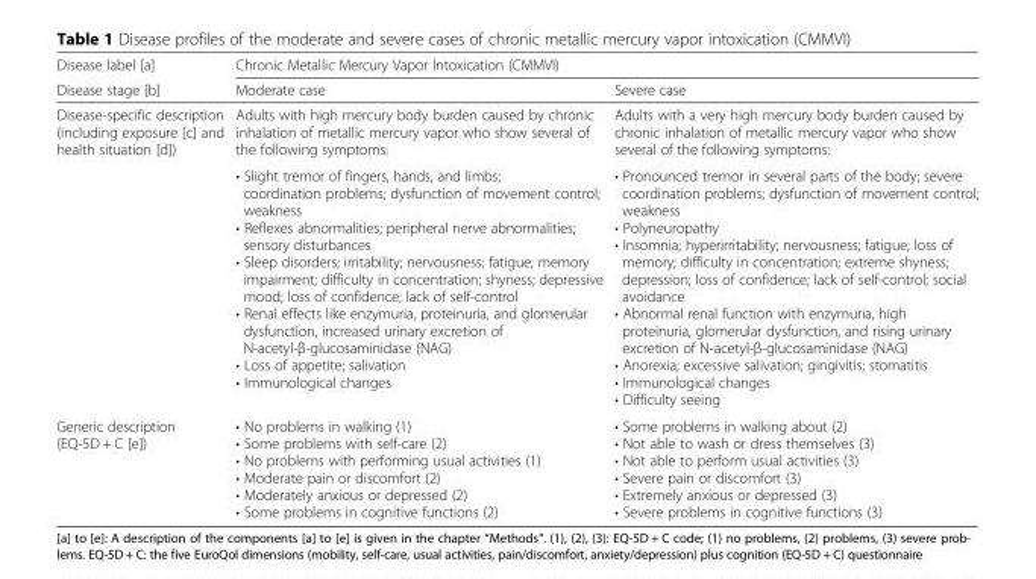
<table><thead><tr><td rowspan="2">Disease label [a] Disease stage [b]</td><td colspan="2">Chronic Metallic Mercury Vapor Intoxication (CMMVI)</td></tr><tr><td>Moderate case</td><td>Severe case</td></tr></thead><tbody><tr><td rowspan="2">Disease-specific description (including exposure [c] and health situation [d])</td><td>Adults with high mercury body burden caused by chronic inhalation of metallic mercury vapor who show several of the following symptoms:</td><td>Adults with a very high mercury body burden caused by chronic inhalation of metallic mercury vapor who show several of the following symptoms:</td></tr><tr><td>• Slight tremor of fingers, hands, and limbs; coordination problems; dysfunction of movement control; weakness • Reflexes abnormalities; peripheral nerve abnormalities; sensory disturbances • Sleep disorders; irritability; nervousness; fatigue; memory impairment; difficulty in concentration; shyness; depressive mood; loss of confidence; lack of self-control • Renal effects like enzymuria, proteinuria, and glomerular dysfunction, increased urinary excretion of N-acetyl-β-glucosaminidase (NAG) • Loss of appetite; salivation • Immunological changes</td><td>• Pronounced tremor in several parts of the body; severe coordination problems; dysfunction of movement control; weakness • Polyneuropathy • Insomnia; hyperirritability; nervousness; fatigue; loss of memory; difficulty in concentration; extreme shyness; depression; loss of confidence; lack of self-control; social avoidance • Abnormal renal function with enzymuria, high proteinuria, glomerular dysfunction, and rising urinary excretion of N-acetyl-β-glucosaminidase (NAG) • Anorexia; excessive salivation; gingivitis; stomatitis • Immunological changes • Difficulty seeing</td></tr><tr><td>Generic description (EQ-5D + C [e])</td><td>• No problems in walking (1) • Some problems with self-care (2) • No problems with performing usual activities (1) • Moderate pain or discomfort (2) • Moderately anxious or depressed (2) • Some problems in cognitive functions (2)</td><td>• Some problems in walking about (2) • Not able to wash or dress themselves (3) • Not able to perform usual activities (3) • Severe pain or discomfort (3) • Extremely anxious or depressed (3) • Severe problems in cognitive functions (3)</td></tr></tbody></table>